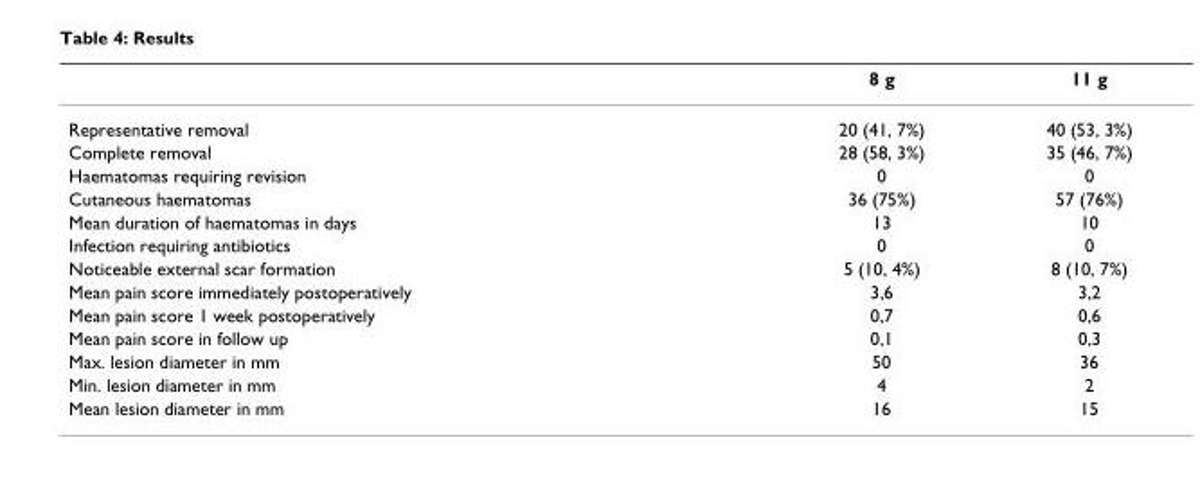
<table><thead><tr><td></td><td>8 g</td><td>11 g</td></tr></thead><tbody><tr><td>Representative removal</td><td>20 (41, 7%)</td><td>40 (53, 3%)</td></tr><tr><td>Complete removal</td><td>28 (58, 3%)</td><td>35 (46, 7%)</td></tr><tr><td>Haematomas requiring revision</td><td>0</td><td>0</td></tr><tr><td>Cutaneous haematomas</td><td>36 (75%)</td><td>57 (76%)</td></tr><tr><td>Mean duration of haematomas in days</td><td>13</td><td>10</td></tr><tr><td>Infection requiring antibiotics</td><td>0</td><td>0</td></tr><tr><td>Noticeable external scar formation</td><td>5 (10, 4%)</td><td>8 (10, 7%)</td></tr><tr><td>Mean pain score immediately postoperatively</td><td>3,6</td><td>3,2</td></tr><tr><td>Mean pain score 1 week postoperatively</td><td>0,7</td><td>0,6</td></tr><tr><td>Mean pain score in follow up</td><td>0,1</td><td>0,3</td></tr><tr><td>Max. lesion diameter in mm</td><td>50</td><td>36</td></tr><tr><td>Min. lesion diameter in mm</td><td>4</td><td>2</td></tr><tr><td>Mean lesion diameter in mm</td><td>16</td><td>15</td></tr></tbody></table>